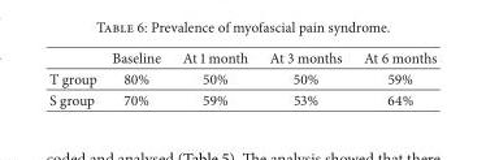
<table><thead><tr><td></td><td>Baseline</td><td>At 1 month</td><td>At 3 months</td><td>At 6 months</td></tr></thead><tbody><tr><td>T group</td><td>80%</td><td>50%</td><td>50%</td><td>59%</td></tr><tr><td>S group</td><td>70%</td><td>59%</td><td>53%</td><td>64%</td></tr></tbody></table>